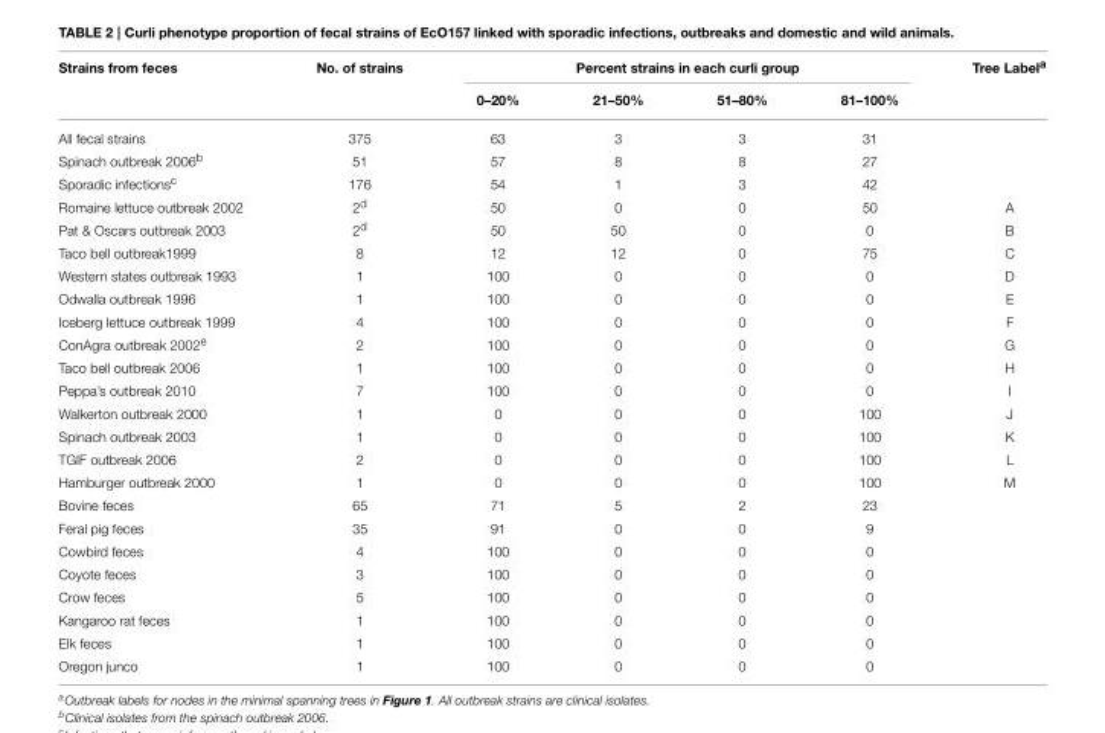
<table><thead><tr><td rowspan="2">Strains from feces</td><td rowspan="2">No. of strains</td><td colspan="4">Percent strains in each curli group</td><td rowspan="2">Tree Label<sup>a</sup></td></tr><tr><td>0–20%</td><td>21–50%</td><td>51–80%</td><td>81–100%</td></tr></thead><tbody><tr><td>All fecal strains</td><td>375</td><td>63</td><td>3</td><td>3</td><td>31</td><td></td></tr><tr><td>Spinach outbreak 2006<sup>b</sup></td><td>51</td><td>57</td><td>8</td><td>8</td><td>27</td><td></td></tr><tr><td>Sporadic infections<sup>c</sup></td><td>176</td><td>54</td><td>1</td><td>3</td><td>42</td><td></td></tr><tr><td>Romaine lettuce outbreak 2002</td><td>2<sup>d</sup></td><td>50</td><td>0</td><td>0</td><td>50</td><td>A</td></tr><tr><td>Pat &amp; Oscars outbreak 2003</td><td>2<sup>d</sup></td><td>50</td><td>50</td><td>0</td><td>0</td><td>B</td></tr><tr><td>Taco bell outbreak1999</td><td>8</td><td>12</td><td>12</td><td>0</td><td>75</td><td>C</td></tr><tr><td>Western states outbreak 1993</td><td>1</td><td>100</td><td>0</td><td>0</td><td>0</td><td>D</td></tr><tr><td>Odwalla outbreak 1996</td><td>1</td><td>100</td><td>0</td><td>0</td><td>0</td><td>E</td></tr><tr><td>Iceberg lettuce outbreak 1999</td><td>4</td><td>100</td><td>0</td><td>0</td><td>0</td><td>F</td></tr><tr><td>ConAgra outbreak 2002<sup>e</sup></td><td>2</td><td>100</td><td>0</td><td>0</td><td>0</td><td>G</td></tr><tr><td>Taco bell outbreak 2006</td><td>1</td><td>100</td><td>0</td><td>0</td><td>0</td><td>H</td></tr><tr><td>Peppa’s outbreak 2010</td><td>7</td><td>100</td><td>0</td><td>0</td><td>0</td><td>I</td></tr><tr><td>Walkerton outbreak 2000</td><td>1</td><td>0</td><td>0</td><td>0</td><td>100</td><td>J</td></tr><tr><td>Spinach outbreak 2003</td><td>1</td><td>0</td><td>0</td><td>0</td><td>100</td><td>K</td></tr><tr><td>TGIF outbreak 2006</td><td>2</td><td>0</td><td>0</td><td>0</td><td>100</td><td>L</td></tr><tr><td>Hamburger outbreak 2000</td><td>1</td><td>0</td><td>0</td><td>0</td><td>100</td><td>M</td></tr><tr><td>Bovine feces</td><td>65</td><td>71</td><td>5</td><td>2</td><td>23</td><td></td></tr><tr><td>Feral pig feces</td><td>35</td><td>91</td><td>0</td><td>0</td><td>9</td><td></td></tr><tr><td>Cowbird feces</td><td>4</td><td>100</td><td>0</td><td>0</td><td>0</td><td></td></tr><tr><td>Coyote feces</td><td>3</td><td>100</td><td>0</td><td>0</td><td>0</td><td></td></tr><tr><td>Crow feces</td><td>5</td><td>100</td><td>0</td><td>0</td><td>0</td><td></td></tr><tr><td>Kangaroo rat feces</td><td>1</td><td>100</td><td>0</td><td>0</td><td>0</td><td></td></tr><tr><td>Elk feces</td><td>1</td><td>100</td><td>0</td><td>0</td><td>0</td><td></td></tr><tr><td>Oregon junco</td><td>1</td><td>100</td><td>0</td><td>0</td><td>0</td><td></td></tr></tbody></table>